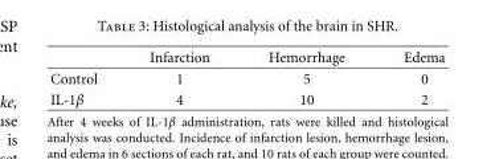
<table><thead><tr><td></td><td>Infarction</td><td>Hemorrhage</td><td>Edema</td></tr></thead><tbody><tr><td>Control</td><td>1</td><td>5</td><td>0</td></tr><tr><td>IL-1β</td><td>4</td><td>10</td><td>2</td></tr></tbody></table>